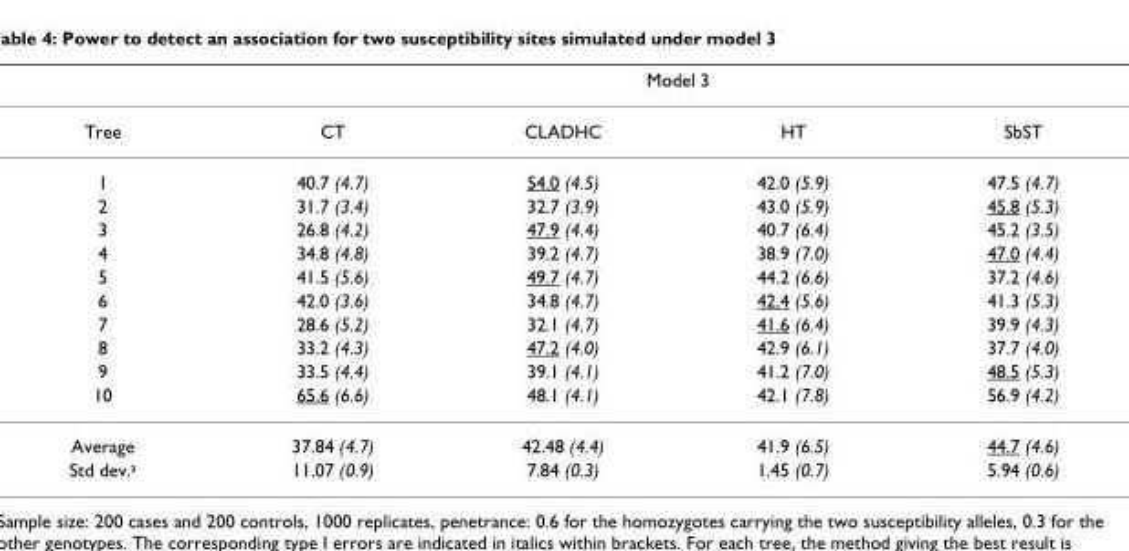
<table><thead><tr><td rowspan="2">Tree</td><td rowspan="2">CT</td><td colspan="2">Model 3</td><td rowspan="2">SbST</td></tr><tr><td>CLADHC</td><td>HT</td></tr></thead><tbody><tr><td>1</td><td>40.7 (4.7)</td><td>54.0 (4.5)</td><td>42.0 (5.9)</td><td>47.5 (4.7)</td></tr><tr><td>2</td><td>31.7 (3.4)</td><td>32.7 (3.9)</td><td>43.0 (5.9)</td><td>45.8 (5.3)</td></tr><tr><td>3</td><td>26.8 (4.2)</td><td>47.9 (4.4)</td><td>40.7 (6.4)</td><td>45.2 (3.5)</td></tr><tr><td>4</td><td>34.8 (4.8)</td><td>39.2 (4.7)</td><td>38.9 (7.0)</td><td>47.0 (4.4)</td></tr><tr><td>5</td><td>41.5 (5.6)</td><td>49.7 (4.7)</td><td>44.2 (6.6)</td><td>37.2 (4.6)</td></tr><tr><td>6</td><td>42.0 (3.6)</td><td>34.8 (4.7)</td><td>42.4 (5.6)</td><td>41.3 (5.3)</td></tr><tr><td>7</td><td>28.6 (5.2)</td><td>32.1 (4.7)</td><td>41.6 (6.4)</td><td>39.9 (4.3)</td></tr><tr><td>8</td><td>33.2 (4.3)</td><td>47.2 (4.0)</td><td>42.9 (6.1)</td><td>37.7 (4.0)</td></tr><tr><td>9</td><td>33.5 (4.4)</td><td>39.1 (4.1)</td><td>41.2 (7.0)</td><td>48.5 (5.3)</td></tr><tr><td>10</td><td>65.6 (6.6)</td><td>48.1 (4.1)</td><td>42.1 (7.8)</td><td>56.9 (4.2)</td></tr><tr><td>Average</td><td>37.84 (4.7)</td><td>42.48 (4.4)</td><td>41.9 (6.5)</td><td>44.7 (4.6)</td></tr><tr><td>Std dev.<sup>a</sup></td><td>11.07 (0.9)</td><td>7.84 (0.3)</td><td>1.45 (0.7)</td><td>5.94 (0.6)</td></tr></tbody></table>